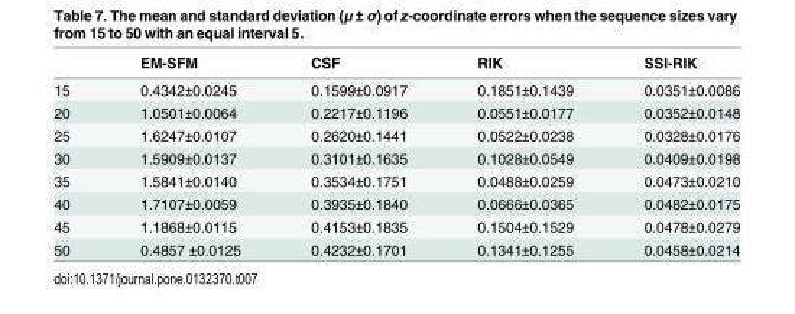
<table><thead><tr><td></td><td>EM-SFM</td><td>CSF</td><td>RIK</td><td>SSI-RIK</td></tr></thead><tbody><tr><td>15</td><td>0.4342±0.0245</td><td>0.1599±0.0917</td><td>0.1851±0.1439</td><td>0.0351±0.0086</td></tr><tr><td>20</td><td>1.0501±0.0064</td><td>0.2217±0.1196</td><td>0.0551±0.0177</td><td>0.0352±0.0148</td></tr><tr><td>25</td><td>1.6247±0.0107</td><td>0.2620±0.1441</td><td>0.0522±0.0238</td><td>0.0328±0.0176</td></tr><tr><td>30</td><td>1.5909±0.0137</td><td>0.3101±0.1635</td><td>0.1028±0.0549</td><td>0.0409±0.0198</td></tr><tr><td>35</td><td>1.5841±0.0140</td><td>0.3534±0.1751</td><td>0.0488±0.0259</td><td>0.0473±0.0210</td></tr><tr><td>40</td><td>1.7107±0.0059</td><td>0.3935±0.1840</td><td>0.0666±0.0365</td><td>0.0482±0.0175</td></tr><tr><td>45</td><td>1.1868±0.0115</td><td>0.4153±0.1835</td><td>0.1504±0.1529</td><td>0.0478±0.0279</td></tr><tr><td>50</td><td>0.4857 ±0.0125</td><td>0.4232±0.1701</td><td>0.1341±0.1255</td><td>0.0458±0.0214</td></tr></tbody></table>